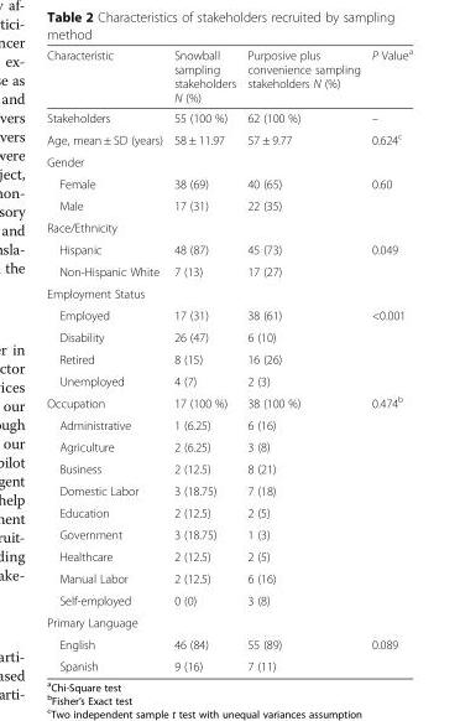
<table><thead><tr><td>Characteristic</td><td>Snowball sampling stakeholders N (%)</td><td>Purposive plus convenience sampling stakeholders N (%)</td><td>P Value<sup>a</sup></td></tr></thead><tbody><tr><td>Stakeholders</td><td>55 (100 %)</td><td>62 (100 %)</td><td>–</td></tr><tr><td>Age, mean ± SD (years)</td><td>58 ± 11.97</td><td>57 ± 9.77</td><td>0.624<sup>c</sup></td></tr><tr><td colspan="4">Gender</td></tr><tr><td>Female</td><td>38 (69)</td><td>40 (65)</td><td>0.60</td></tr><tr><td>Male</td><td>17 (31)</td><td>22 (35)</td><td></td></tr><tr><td colspan="4">Race/Ethnicity</td></tr><tr><td>Hispanic</td><td>48 (87)</td><td>45 (73)</td><td>0.049</td></tr><tr><td>Non-Hispanic White</td><td>7 (13)</td><td>17 (27)</td><td></td></tr><tr><td colspan="4">Employment Status</td></tr><tr><td>Employed</td><td>17 (31)</td><td>38 (61)</td><td>&lt;0.001</td></tr><tr><td>Disability</td><td>26 (47)</td><td>6 (10)</td><td></td></tr><tr><td>Retired</td><td>8 (15)</td><td>16 (26)</td><td></td></tr><tr><td>Unemployed</td><td>4 (7)</td><td>2 (3)</td><td></td></tr><tr><td>Occupation</td><td>17 (100 %)</td><td>38 (100 %)</td><td>0.474<sup>b</sup></td></tr><tr><td>Administrative</td><td>1 (6.25)</td><td>6 (16)</td><td></td></tr><tr><td>Agriculture</td><td>2 (6.25)</td><td>3 (8)</td><td></td></tr><tr><td>Business</td><td>2 (12.5)</td><td>8 (21)</td><td></td></tr><tr><td>Domestic Labor</td><td>3 (18.75)</td><td>7 (18)</td><td></td></tr><tr><td>Education</td><td>2 (12.5)</td><td>2 (5)</td><td></td></tr><tr><td>Government</td><td>3 (18.75)</td><td>1 (3)</td><td></td></tr><tr><td>Healthcare</td><td>2 (12.5)</td><td>2 (5)</td><td></td></tr><tr><td>Manual Labor</td><td>2 (12.5)</td><td>6 (16)</td><td></td></tr><tr><td>Self-employed</td><td>0 (0)</td><td>3 (8)</td><td></td></tr><tr><td colspan="4">Primary Language</td></tr><tr><td>English</td><td>46 (84)</td><td>55 (89)</td><td>0.089</td></tr><tr><td>Spanish</td><td>9 (16)</td><td>7 (11)</td><td></td></tr></tbody></table>